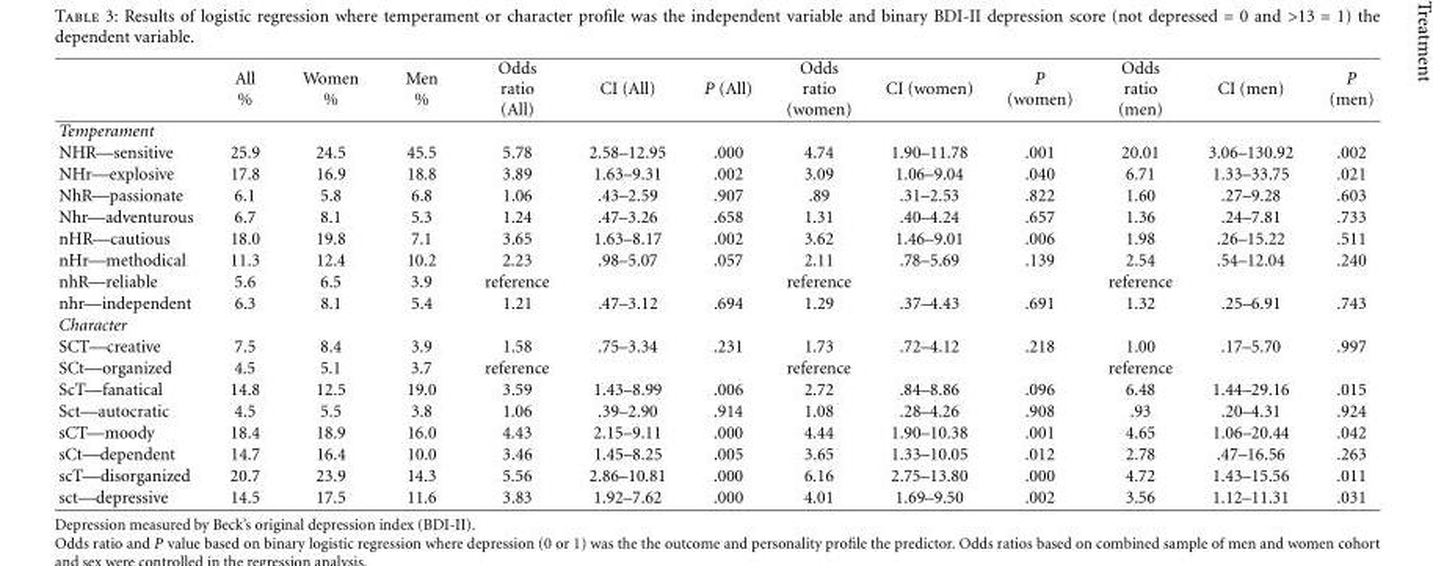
<table><thead><tr><td></td><td>All %</td><td>Women %</td><td>Men %</td><td>Odds ratio (All)</td><td>CI (All)</td><td>P (All)</td><td>Odds ratio (women)</td><td>CI (women)</td><td>P (women)</td><td>Odds ratio (men)</td><td>CI (men)</td><td>P (men)</td></tr></thead><tbody><tr><td colspan="13">Temperament</td></tr><tr><td>NHR—sensitive</td><td>25.9</td><td>24.5</td><td>45.5</td><td>5.78</td><td>2.58–12.95</td><td>.000</td><td>4.74</td><td>1.90–11.78</td><td>.001</td><td>20.01</td><td>3.06–130.92</td><td>.002</td></tr><tr><td>NHr—explosive</td><td>17.8</td><td>16.9</td><td>18.8</td><td>3.89</td><td>1.63–9.31</td><td>.002</td><td>3.09</td><td>1.06–9.04</td><td>.040</td><td>6.71</td><td>1.33–33.75</td><td>.021</td></tr><tr><td>NhR—passionate</td><td>6.1</td><td>5.8</td><td>6.8</td><td>1.06</td><td>.43–2.59</td><td>.907</td><td>.89</td><td>.31–2.53</td><td>.822</td><td>1.60</td><td>.27–9.28</td><td>.603</td></tr><tr><td>Nhr—adventurous</td><td>6.7</td><td>8.1</td><td>5.3</td><td>1.24</td><td>.47–3.26</td><td>.658</td><td>1.31</td><td>.40–4.24</td><td>.657</td><td>1.36</td><td>.24–7.81</td><td>.733</td></tr><tr><td>nHR—cautious</td><td>18.0</td><td>19.8</td><td>7.1</td><td>3.65</td><td>1.63–8.17</td><td>.002</td><td>3.62</td><td>1.46–9.01</td><td>.006</td><td>1.98</td><td>.26–15.22</td><td>.511</td></tr><tr><td>nHr—methodical</td><td>11.3</td><td>12.4</td><td>10.2</td><td>2.23</td><td>.98–5.07</td><td>.057</td><td>2.11</td><td>.78–5.69</td><td>.139</td><td>2.54</td><td>.54–12.04</td><td>.240</td></tr><tr><td>nhR—reliable</td><td>5.6</td><td>6.5</td><td>3.9</td><td>reference</td><td></td><td></td><td>reference</td><td></td><td></td><td>reference</td><td></td><td></td></tr><tr><td>nhr—independent</td><td>6.3</td><td>8.1</td><td>5.4</td><td>1.21</td><td>.47–3.12</td><td>.694</td><td>1.29</td><td>.37–4.43</td><td>.691</td><td>1.32</td><td>.25–6.91</td><td>.743</td></tr><tr><td colspan="13">Character</td></tr><tr><td>SCT—creative</td><td>7.5</td><td>8.4</td><td>3.9</td><td>1.58</td><td>.75–3.34</td><td>.231</td><td>1.73</td><td>.72–4.12</td><td>.218</td><td>1.00</td><td>.17–5.70</td><td>.997</td></tr><tr><td>SCt—organized</td><td>4.5</td><td>5.1</td><td>3.7</td><td>reference</td><td></td><td></td><td>reference</td><td></td><td></td><td>reference</td><td></td><td></td></tr><tr><td>ScT—fanatical</td><td>14.8</td><td>12.5</td><td>19.0</td><td>3.59</td><td>1.43–8.99</td><td>.006</td><td>2.72</td><td>.84–8.86</td><td>.096</td><td>6.48</td><td>1.44–29.16</td><td>.015</td></tr><tr><td>Sct—autocratic</td><td>4.5</td><td>5.5</td><td>3.8</td><td>1.06</td><td>.39–2.90</td><td>.914</td><td>1.08</td><td>.28–4.26</td><td>.908</td><td>.93</td><td>.20–4.31</td><td>.924</td></tr><tr><td>sCT—moody</td><td>18.4</td><td>18.9</td><td>16.0</td><td>4.43</td><td>2.15–9.11</td><td>.000</td><td>4.44</td><td>1.90–10.38</td><td>.001</td><td>4.65</td><td>1.06–20.44</td><td>.042</td></tr><tr><td>sCt—dependent</td><td>14.7</td><td>16.4</td><td>10.0</td><td>3.46</td><td>1.45–8.25</td><td>.005</td><td>3.65</td><td>1.33–10.05</td><td>.012</td><td>2.78</td><td>.47–16.56</td><td>.263</td></tr><tr><td>scT—disorganized</td><td>20.7</td><td>23.9</td><td>14.3</td><td>5.56</td><td>2.86–10.81</td><td>.000</td><td>6.16</td><td>2.75–13.80</td><td>.000</td><td>4.72</td><td>1.43–15.56</td><td>.011</td></tr><tr><td>sct—depressive</td><td>14.5</td><td>17.5</td><td>11.6</td><td>3.83</td><td>1.92–7.62</td><td>.000</td><td>4.01</td><td>1.69–9.50</td><td>.002</td><td>3.56</td><td>1.12–11.31</td><td>.031</td></tr></tbody></table>